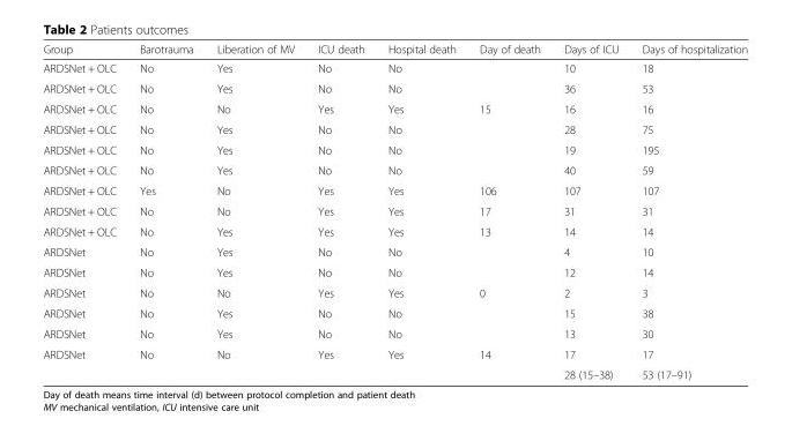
<table><thead><tr><td>Group</td><td>Barotrauma</td><td>Liberation of MV</td><td>ICU death</td><td>Hospital death</td><td>Day of death</td><td>Days of ICU</td><td>Days of hospitalization</td></tr></thead><tbody><tr><td>ARDSNet + OLC</td><td>No</td><td>Yes</td><td>No</td><td>No</td><td></td><td>10</td><td>18</td></tr><tr><td>ARDSNet + OLC</td><td>No</td><td>Yes</td><td>No</td><td>No</td><td></td><td>36</td><td>53</td></tr><tr><td>ARDSNet + OLC</td><td>No</td><td>No</td><td>Yes</td><td>Yes</td><td>15</td><td>16</td><td>16</td></tr><tr><td>ARDSNet + OLC</td><td>No</td><td>Yes</td><td>No</td><td>No</td><td></td><td>28</td><td>75</td></tr><tr><td>ARDSNet + OLC</td><td>No</td><td>Yes</td><td>No</td><td>No</td><td></td><td>19</td><td>195</td></tr><tr><td>ARDSNet + OLC</td><td>No</td><td>Yes</td><td>No</td><td>No</td><td></td><td>40</td><td>59</td></tr><tr><td>ARDSNet + OLC</td><td>Yes</td><td>No</td><td>Yes</td><td>Yes</td><td>106</td><td>107</td><td>107</td></tr><tr><td>ARDSNet + OLC</td><td>No</td><td>No</td><td>Yes</td><td>Yes</td><td>17</td><td>31</td><td>31</td></tr><tr><td>ARDSNet + OLC</td><td>No</td><td>Yes</td><td>Yes</td><td>Yes</td><td>13</td><td>14</td><td>14</td></tr><tr><td>ARDSNet</td><td>No</td><td>Yes</td><td>No</td><td>No</td><td></td><td>4</td><td>10</td></tr><tr><td>ARDSNet</td><td>No</td><td>Yes</td><td>No</td><td>No</td><td></td><td>12</td><td>14</td></tr><tr><td>ARDSNet</td><td>No</td><td>No</td><td>Yes</td><td>Yes</td><td>0</td><td>2</td><td>3</td></tr><tr><td>ARDSNet</td><td>No</td><td>Yes</td><td>No</td><td>No</td><td></td><td>15</td><td>38</td></tr><tr><td>ARDSNet</td><td>No</td><td>Yes</td><td>No</td><td>No</td><td></td><td>13</td><td>30</td></tr><tr><td rowspan="2">ARDSNet</td><td>No</td><td>No</td><td>Yes</td><td>Yes</td><td>14</td><td>17</td><td>17</td></tr><tr><td></td><td></td><td></td><td></td><td></td><td>28 (15–38)</td><td>53 (17–91)</td></tr></tbody></table>